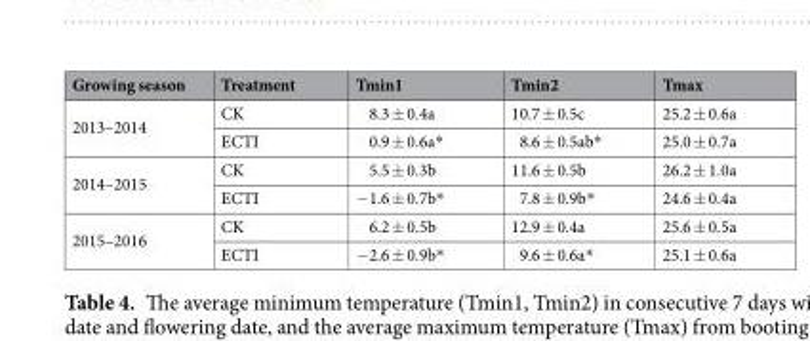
<table><thead><tr><td>Growing season</td><td>Treatment</td><td>Tmin1</td><td>Tmin2</td><td>Tmax</td></tr></thead><tbody><tr><td rowspan="2">2013–2014</td><td>CK</td><td>8.3 ± 0.4a</td><td>10.7 ± 0.5c</td><td>25.2 ± 0.6a</td></tr><tr><td>ECTI</td><td>0.9 ± 0.6a*</td><td>8.6 ± 0.5ab*</td><td>25.0 ± 0.7a</td></tr><tr><td rowspan="2">2014–2015</td><td>CK</td><td>5.5 ± 0.3b</td><td>11.6 ± 0.5b</td><td>26.2 ± 1.0a</td></tr><tr><td>ECTI</td><td>−1.6 ± 0.7b*</td><td>7.8 ± 0.9b*</td><td>24.6 ± 0.4a</td></tr><tr><td rowspan="2">2015–2016</td><td>CK</td><td>6.2 ± 0.5b</td><td>12.9 ± 0.4a</td><td>25.6 ± 0.5a</td></tr><tr><td>ECTI</td><td>−2.6 ± 0.9b*</td><td>9.6 ± 0.6a*</td><td>25.1 ± 0.6a</td></tr></tbody></table>